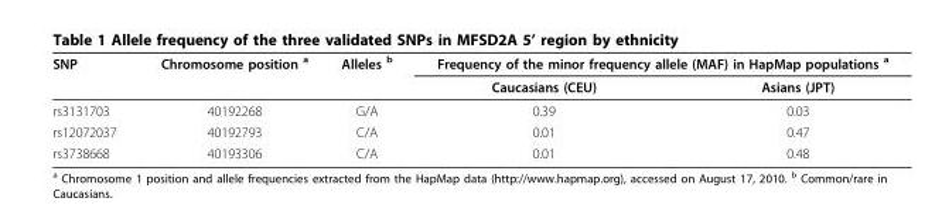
<table><thead><tr><td rowspan="2">SNP</td><td rowspan="2">Chromosome position <sup>a</sup></td><td rowspan="2">Alleles <sup>b</sup></td><td colspan="2">Frequency of the minor frequency allele (MAF) in HapMap populations <sup>a</sup></td></tr><tr><td>Caucasians (CEU)</td><td>Asians (JPT)</td></tr></thead><tbody><tr><td>rs3131703</td><td>40192268</td><td>G/A</td><td>0.39</td><td>0.03</td></tr><tr><td>rs12072037</td><td>40192793</td><td>C/A</td><td>0.01</td><td>0.47</td></tr><tr><td>rs3738668</td><td>40193306</td><td>C/A</td><td>0.01</td><td>0.48</td></tr></tbody></table>